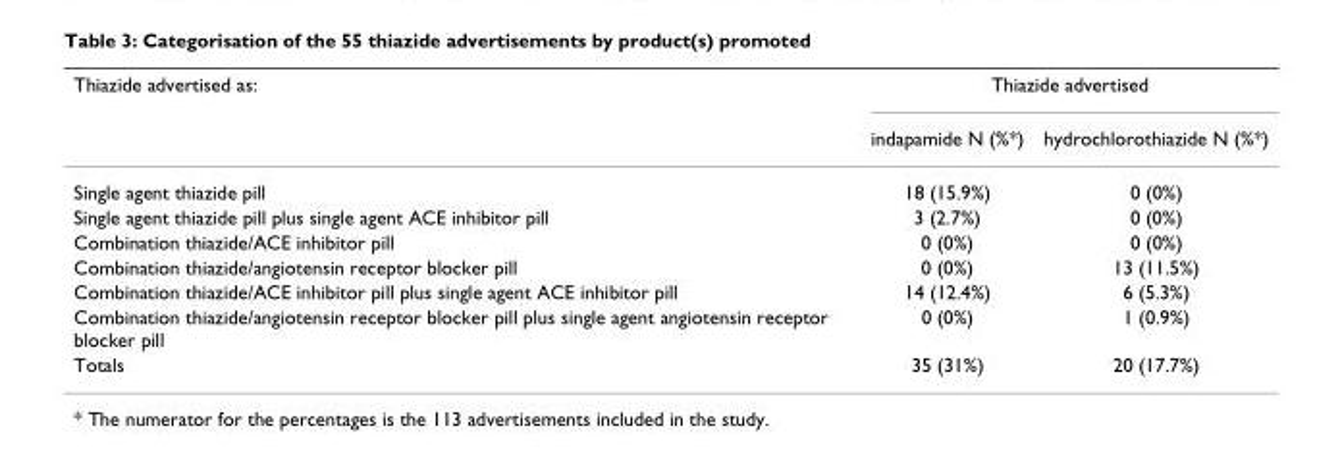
<table><thead><tr><td rowspan="2">Thiazide advertised as:</td><td colspan="2">Thiazide advertised</td></tr><tr><td>indapamide N (%*)</td><td>hydrochlorothiazide N (%*)</td></tr></thead><tbody><tr><td>Single agent thiazide pill</td><td>18 (15.9%)</td><td>0 (0%)</td></tr><tr><td>Single agent thiazide pill plus single agent ACE inhibitor pill</td><td>3 (2.7%)</td><td>0 (0%)</td></tr><tr><td>Combination thiazide/ACE inhibitor pill</td><td>0 (0%)</td><td>0 (0%)</td></tr><tr><td>Combination thiazide/angiotensin receptor blocker pill</td><td>0 (0%)</td><td>13 (11.5%)</td></tr><tr><td>Combination thiazide/ACE inhibitor pill plus single agent ACE inhibitor pill</td><td>14 (12.4%)</td><td>6 (5.3%)</td></tr><tr><td>Combination thiazide/angiotensin receptor blocker pill plus single agent angiotensin receptor blocker pill</td><td>0 (0%)</td><td>1 (0.9%)</td></tr><tr><td>Totals</td><td>35 (31%)</td><td>20 (17.7%)</td></tr></tbody></table>